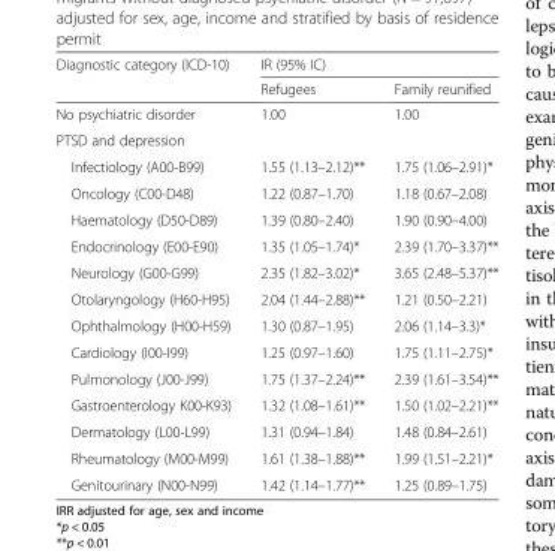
<table><thead><tr><td rowspan="2">Diagnostic category (ICD-10)</td><td colspan="2">IR (95% IC)</td></tr><tr><td>Refugees</td><td>Family reunified</td></tr></thead><tbody><tr><td>No psychiatric disorder</td><td>1.00</td><td>1.00</td></tr><tr><td colspan="3">PTSD and depression</td></tr><tr><td>Infectiology (A00-B99)</td><td>1.55 (1.13–2.12)**</td><td>1.75 (1.06–2.91)*</td></tr><tr><td>Oncology (C00-D48)</td><td>1.22 (0.87–1.70)</td><td>1.18 (0.67–2.08)</td></tr><tr><td>Haematology (D50-D89)</td><td>1.39 (0.80–2.40)</td><td>1.90 (0.90–4.00)</td></tr><tr><td>Endocrinology (E00-E90)</td><td>1.35 (1.05–1.74)*</td><td>2.39 (1.70–3.37)**</td></tr><tr><td>Neurology (G00-G99)</td><td>2.35 (1.82–3.02)*</td><td>3.65 (2.48–5.37)**</td></tr><tr><td>Otolaryngology (H60-H95)</td><td>2.04 (1.44–2.88)**</td><td>1.21 (0.50–2.21)</td></tr><tr><td>Ophthalmology (H00-H59)</td><td>1.30 (0.87–1.95)</td><td>2.06 (1.14–3.3)*</td></tr><tr><td>Cardiology (I00-I99)</td><td>1.25 (0.97–1.60)</td><td>1.75 (1.11–2.75)*</td></tr><tr><td>Pulmonology (J00-J99)</td><td>1.75 (1.37–2.24)**</td><td>2.39 (1.61–3.54)**</td></tr><tr><td>Gastroenterology K00-K93)</td><td>1.32 (1.08–1.61)**</td><td>1.50 (1.02–2.21)**</td></tr><tr><td>Dermatology (L00-L99)</td><td>1.31 (0.94–1.84)</td><td>1.48 (0.84–2.61)</td></tr><tr><td>Rheumatology (M00-M99)</td><td>1.61 (1.38–1.88)**</td><td>1.99 (1.51–2.21)*</td></tr><tr><td>Genitourinary (N00-N99)</td><td>1.42 (1.14–1.77)**</td><td>1.25 (0.89–1.75)</td></tr></tbody></table>